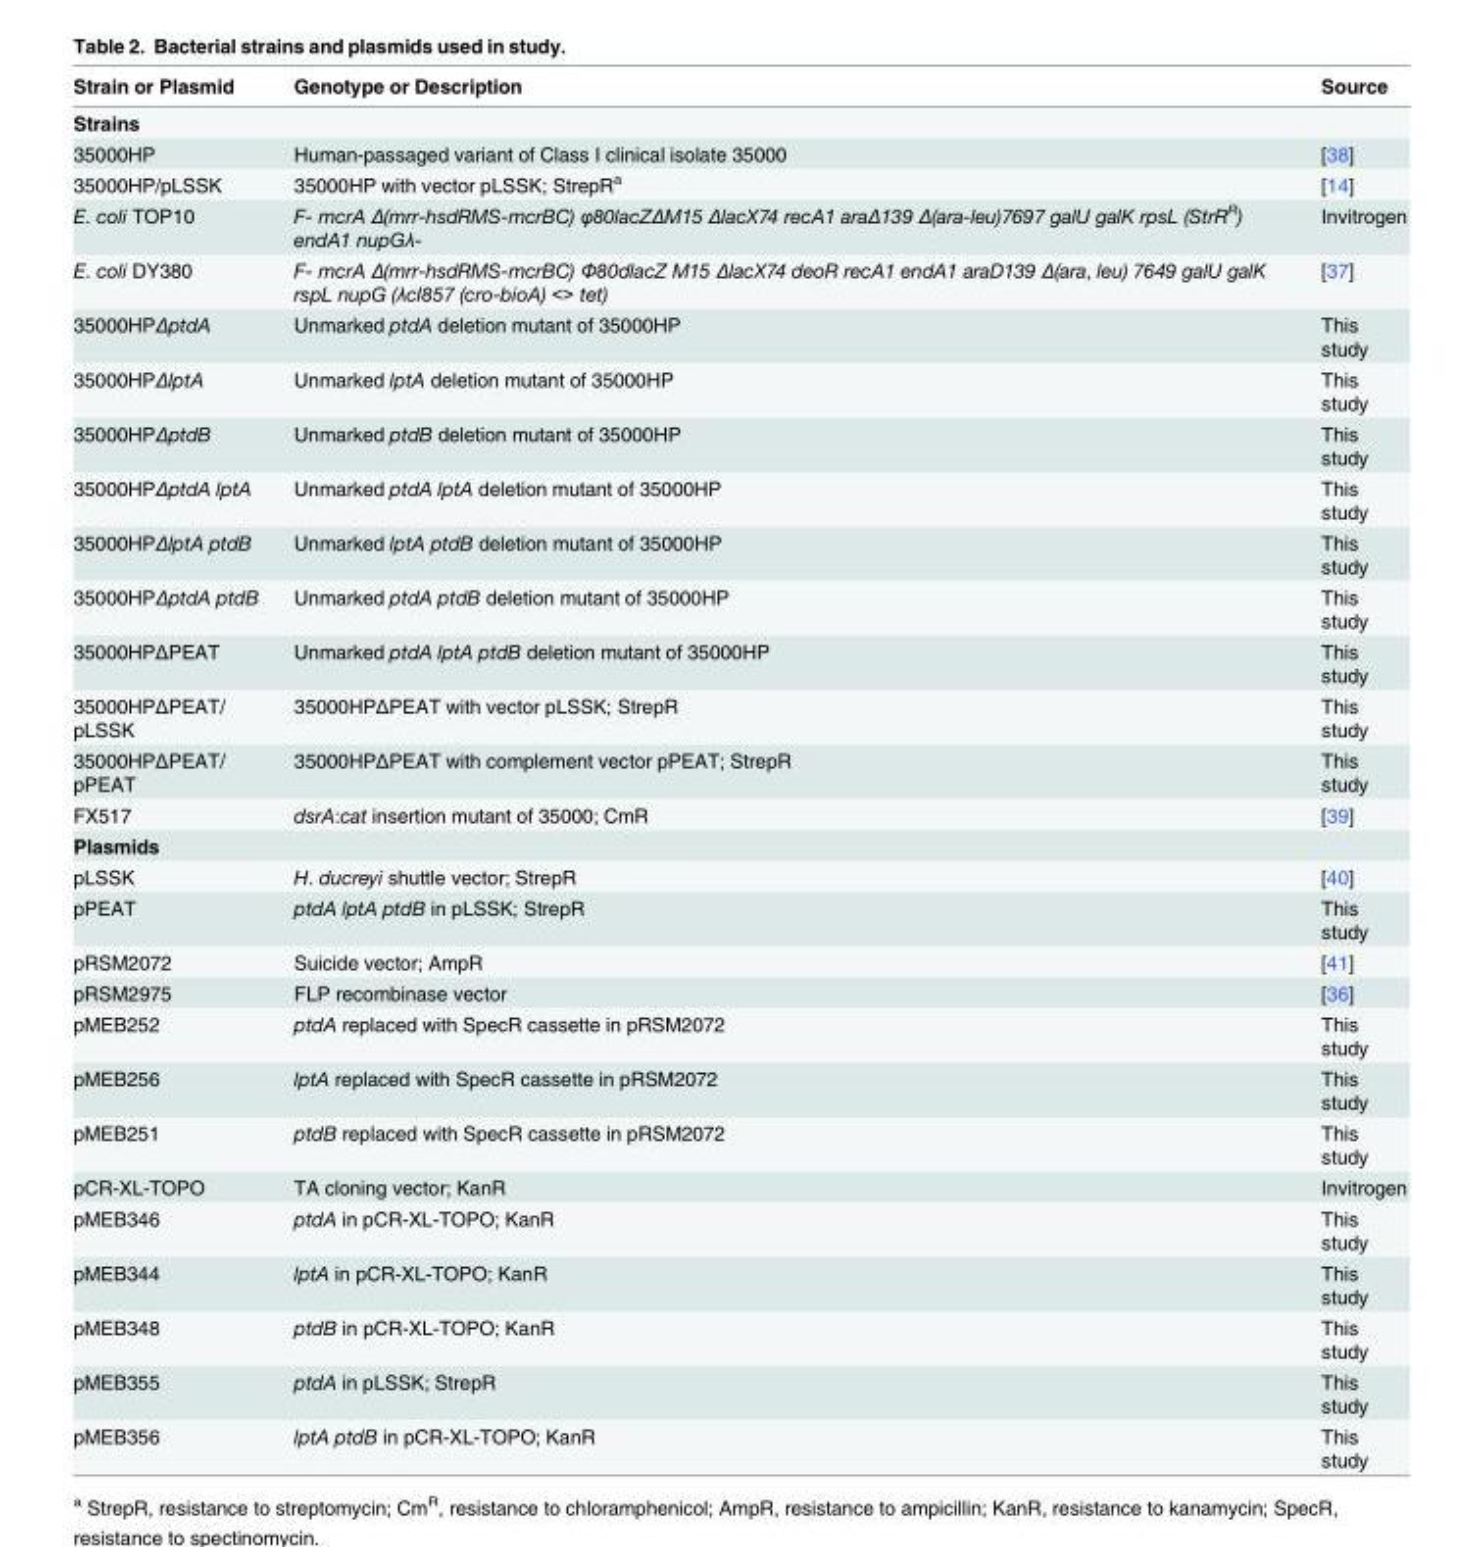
<table><thead><tr><td>Strain or Plasmid</td><td>Genotype or Description</td><td>Source</td></tr></thead><tbody><tr><td colspan="3">Strains</td></tr><tr><td>35000HP</td><td>Human-passaged variant of Class I clinical isolate 35000</td><td>[38]</td></tr><tr><td>35000HP/pLSSK</td><td>35000HP with vector pLSSK; StrepR<sup>a</sup></td><td>[14]</td></tr><tr><td>E. coli TOP10</td><td>F- mcrA Δ(mrr-hsdRMS-mcrBC) φ80lacZΔM15 ΔlacX74 recA1 araΔ139 Δ(ara-leu)7697 galU galK rpsL (StrR<sup>R</sup>) endA1 nupGλ-</td><td>Invitrogen</td></tr><tr><td>E. coli DY380</td><td>F- mcrA Δ(mrr-hsdRMS-mcrBC) Φ80dlacZ M15 ΔlacX74 deoR recA1 endA1 araD139 Δ(ara, leu) 7649 galU galK rspL nupG (λcI857 (cro-bioA) &lt;&gt; tet)</td><td>[37]</td></tr><tr><td>35000HPΔptdA</td><td>Unmarked ptdA deletion mutant of 35000HP</td><td>This study</td></tr><tr><td>35000HPΔlptA</td><td>Unmarked lptA deletion mutant of 35000HP</td><td>This study</td></tr><tr><td>35000HPΔptdB</td><td>Unmarked ptdB deletion mutant of 35000HP</td><td>This study</td></tr><tr><td>35000HPΔptdA lptA</td><td>Unmarked ptdA lptA deletion mutant of 35000HP</td><td>This study</td></tr><tr><td>35000HPΔlptA ptdB</td><td>Unmarked lptA ptdB deletion mutant of 35000HP</td><td>This study</td></tr><tr><td>35000HPΔptdA ptdB</td><td>Unmarked ptdA ptdB deletion mutant of 35000HP</td><td>This study</td></tr><tr><td>35000HPΔPEAT</td><td>Unmarked ptdA lptA ptdB deletion mutant of 35000HP</td><td>This study</td></tr><tr><td>35000HPΔPEAT/ pLSSK</td><td>35000HPΔPEAT with vector pLSSK; StrepR</td><td>This study</td></tr><tr><td>35000HPΔPEAT/ pPEAT</td><td>35000HPΔPEAT with complement vector pPEAT; StrepR</td><td>This study</td></tr><tr><td>FX517</td><td>dsrA:cat insertion mutant of 35000; CmR</td><td>[39]</td></tr><tr><td colspan="3">Plasmids</td></tr><tr><td>pLSSK</td><td>H. ducreyi shuttle vector; StrepR</td><td>[40]</td></tr><tr><td>pPEAT</td><td>ptdA lptA ptdB in pLSSK; StrepR</td><td>This study</td></tr><tr><td>pRSM2072</td><td>Suicide vector; AmpR</td><td>[41]</td></tr><tr><td>pRSM2975</td><td>FLP recombinase vector</td><td>[36]</td></tr><tr><td>pMEB252</td><td>ptdA replaced with SpecR cassette in pRSM2072</td><td>This study</td></tr><tr><td>pMEB256</td><td>lptA replaced with SpecR cassette in pRSM2072</td><td>This study</td></tr><tr><td>pMEB251</td><td>ptdB replaced with SpecR cassette in pRSM2072</td><td>This study</td></tr><tr><td>pCR-XL-TOPO</td><td>TA cloning vector; KanR</td><td>Invitrogen</td></tr><tr><td>pMEB346</td><td>ptdA in pCR-XL-TOPO; KanR</td><td>This study</td></tr><tr><td>pMEB344</td><td>lptA in pCR-XL-TOPO; KanR</td><td>This study</td></tr><tr><td>pMEB348</td><td>ptdB in pCR-XL-TOPO; KanR</td><td>This study</td></tr><tr><td>pMEB355</td><td>ptdA in pLSSK; StrepR</td><td>This study</td></tr><tr><td>pMEB356</td><td>lptA ptdB in pCR-XL-TOPO; KanR</td><td>This study</td></tr></tbody></table>